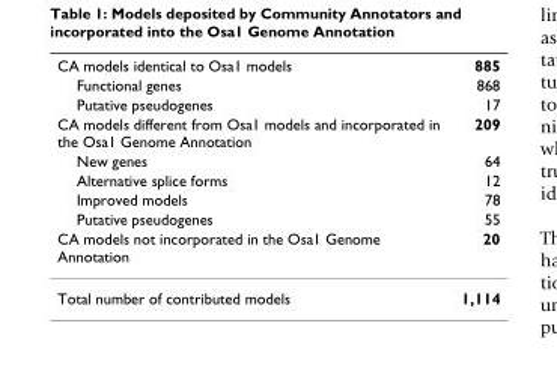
<table><thead><tr><td rowspan="9">CA models identical to Osa1 models Functional genes Putative pseudogenes CA models different from Osa1 models and incorporated in the Osa1 Genome Annotation New genes Alternative splice forms Improved models Putative pseudogenes CA models not incorporated in the Osa1 Genome Annotation</td><td rowspan="9">885 868 17 209 64 12 78 55 20</td></tr><tr></tr><tr></tr><tr></tr><tr></tr><tr></tr><tr></tr><tr></tr><tr></tr></thead><tbody><tr><td>Total number of contributed models</td><td>1,114</td></tr></tbody></table>